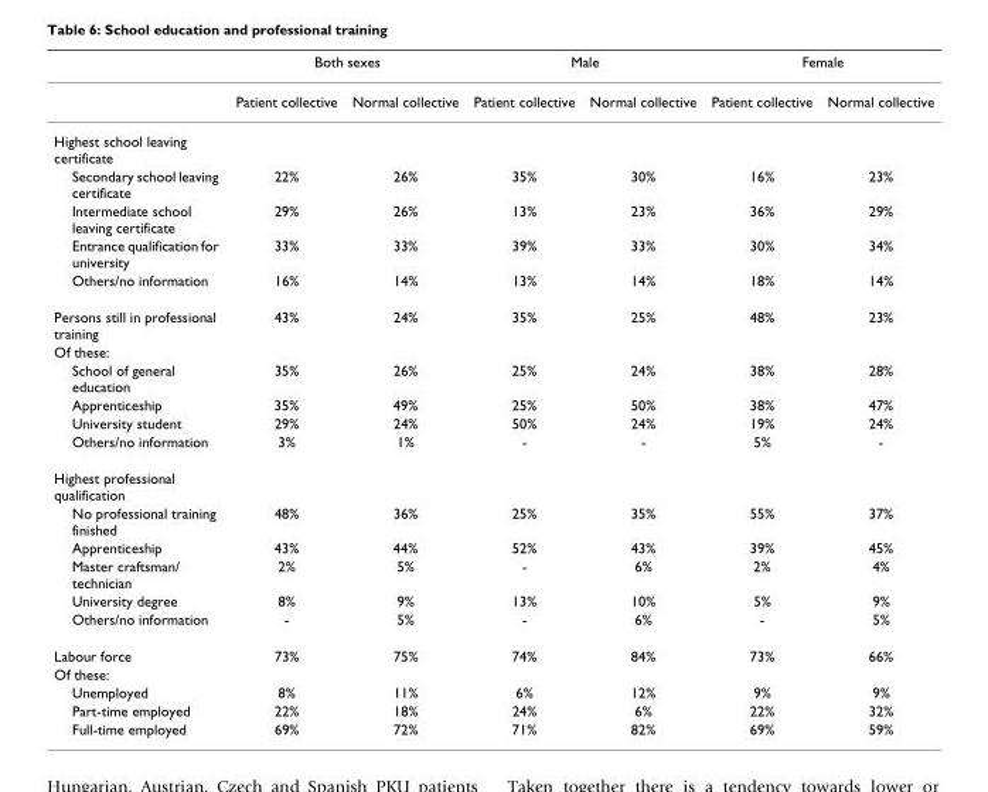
<table><thead><tr><td rowspan="2"></td><td colspan="2">Both sexes</td><td colspan="2">Male</td><td colspan="2">Female</td></tr><tr><td>Patient collective</td><td>Normal collective</td><td>Patient collective</td><td>Normal collective</td><td>Patient collective</td><td>Normal collective</td></tr></thead><tbody><tr><td colspan="7">Highest school leaving certificate</td></tr><tr><td>Secondary school leaving certificate</td><td>22%</td><td>26%</td><td>35%</td><td>30%</td><td>16%</td><td>23%</td></tr><tr><td>Intermediate school leaving certificate</td><td>29%</td><td>26%</td><td>13%</td><td>23%</td><td>36%</td><td>29%</td></tr><tr><td>Entrance qualification for university</td><td>33%</td><td>33%</td><td>39%</td><td>33%</td><td>30%</td><td>34%</td></tr><tr><td>Others/no information</td><td>16%</td><td>14%</td><td>13%</td><td>14%</td><td>18%</td><td>14%</td></tr><tr><td>Persons still in professional training</td><td>43%</td><td>24%</td><td>35%</td><td>25%</td><td>48%</td><td>23%</td></tr><tr><td colspan="7">Of these:</td></tr><tr><td>School of general education</td><td>35%</td><td>26%</td><td>25%</td><td>24%</td><td>38%</td><td>28%</td></tr><tr><td>Apprenticeship</td><td>35%</td><td>49%</td><td>25%</td><td>50%</td><td>38%</td><td>47%</td></tr><tr><td>University student</td><td>29%</td><td>24%</td><td>50%</td><td>24%</td><td>19%</td><td>24%</td></tr><tr><td>Others/no information</td><td>3%</td><td>1%</td><td>-</td><td>-</td><td>5%</td><td>-</td></tr><tr><td colspan="7">Highest professional qualification</td></tr><tr><td>No professional training finished</td><td>48%</td><td>36%</td><td>25%</td><td>35%</td><td>55%</td><td>37%</td></tr><tr><td>Apprenticeship</td><td>43%</td><td>44%</td><td>52%</td><td>43%</td><td>39%</td><td>45%</td></tr><tr><td>Master craftsman/ technician</td><td>2%</td><td>5%</td><td>-</td><td>6%</td><td>2%</td><td>4%</td></tr><tr><td>University degree</td><td>8%</td><td>9%</td><td>13%</td><td>10%</td><td>5%</td><td>9%</td></tr><tr><td>Others/no information</td><td>-</td><td>5%</td><td>-</td><td>6%</td><td>-</td><td>5%</td></tr><tr><td>Labour force</td><td>73%</td><td>75%</td><td>74%</td><td>84%</td><td>73%</td><td>66%</td></tr><tr><td colspan="7">Of these:</td></tr><tr><td>Unemployed</td><td>8%</td><td>11%</td><td>6%</td><td>12%</td><td>9%</td><td>9%</td></tr><tr><td>Part-time employed</td><td>22%</td><td>18%</td><td>24%</td><td>6%</td><td>22%</td><td>32%</td></tr><tr><td>Full-time employed</td><td>69%</td><td>72%</td><td>71%</td><td>82%</td><td>69%</td><td>59%</td></tr></tbody></table>